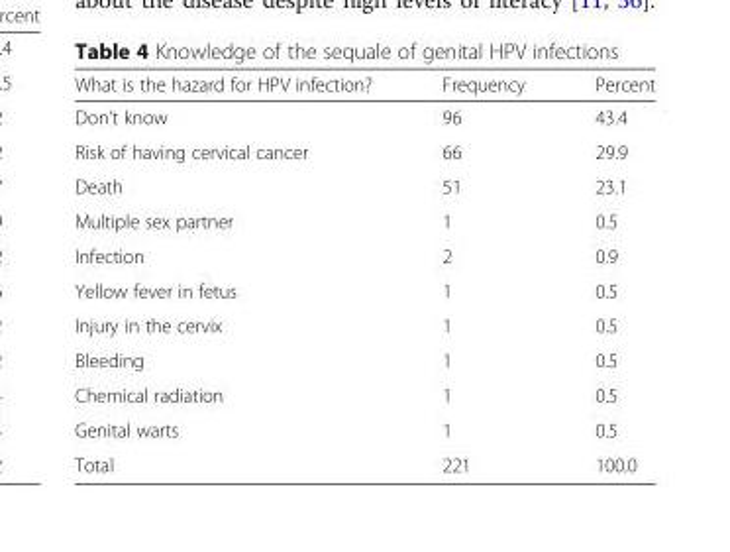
<table><thead><tr><td>What is the hazard for HPV infection?</td><td>Frequency</td><td>Percent</td></tr></thead><tbody><tr><td>Don’t know</td><td>96</td><td>43.4</td></tr><tr><td>Risk of having cervical cancer</td><td>66</td><td>29.9</td></tr><tr><td>Death</td><td>51</td><td>23.1</td></tr><tr><td>Multiple sex partner</td><td>1</td><td>0.5</td></tr><tr><td>Infection</td><td>2</td><td>0.9</td></tr><tr><td>Yellow fever in fetus</td><td>1</td><td>0.5</td></tr><tr><td>Injury in the cervix</td><td>1</td><td>0.5</td></tr><tr><td>Bleeding</td><td>1</td><td>0.5</td></tr><tr><td>Chemical radiation</td><td>1</td><td>0.5</td></tr><tr><td>Genital warts</td><td>1</td><td>0.5</td></tr><tr><td>Total</td><td>221</td><td>100.0</td></tr></tbody></table>